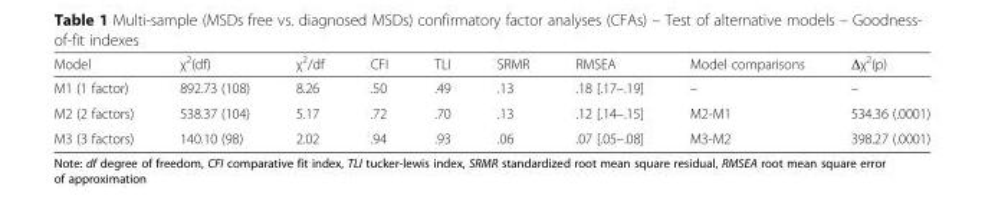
<table><thead><tr><td>Model</td><td>χ<sup>2</sup>(df)</td><td>χ<sup>2</sup>/df</td><td>CFI</td><td>TLI</td><td>SRMR</td><td>RMSEA</td><td>Model comparisons</td><td>Δχ<sup>2</sup>(p)</td></tr></thead><tbody><tr><td>M1 (1 factor)</td><td>892.73 (108)</td><td>8.26</td><td>.50</td><td>.49</td><td>.13</td><td>.18 [.17–.19]</td><td>–</td><td>–</td></tr><tr><td>M2 (2 factors)</td><td>538.37 (104)</td><td>5.17</td><td>.72</td><td>.70</td><td>.13</td><td>.12 [.14–.15]</td><td>M2-M1</td><td>534.36 (.0001)</td></tr><tr><td>M3 (3 factors)</td><td>140.10 (98)</td><td>2.02</td><td>.94</td><td>.93</td><td>.06</td><td>.07 [.05–.08]</td><td>M3-M2</td><td>398.27 (.0001)</td></tr></tbody></table>